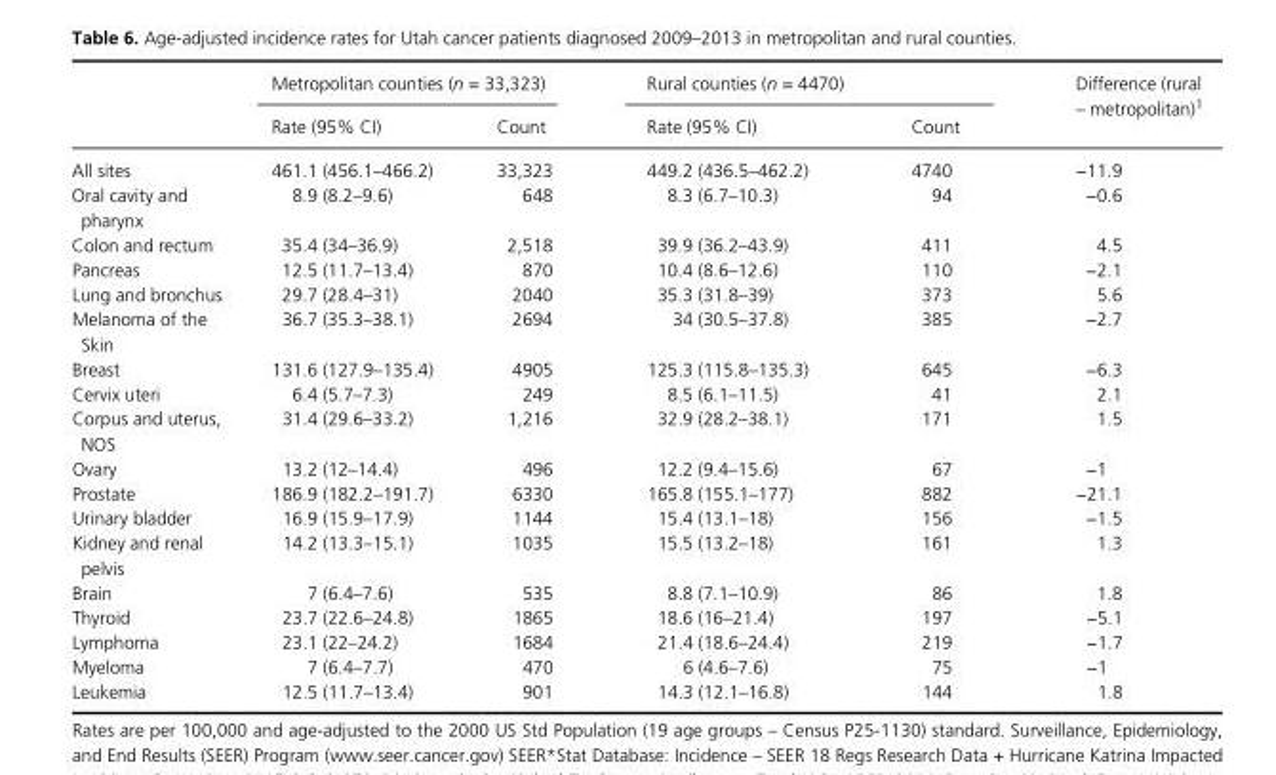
<table><thead><tr><td rowspan="2"></td><td colspan="2">Metropolitan counties (n = 33,323)</td><td colspan="2">Rural counties (n = 4470)</td><td rowspan="2">Difference (rural – metropolitan)1</td></tr><tr><td>Rate (95% CI)</td><td>Count</td><td>Rate (95% CI)</td><td>Count</td></tr></thead><tbody><tr><td>All sites</td><td>461.1 (456.1–466.2)</td><td>33,323</td><td>449.2 (436.5–462.2)</td><td>4740</td><td>−11.9</td></tr><tr><td>Oral cavity and pharynx</td><td>8.9 (8.2–9.6)</td><td>648</td><td>8.3 (6.7–10.3)</td><td>94</td><td>−0.6</td></tr><tr><td>Colon and rectum</td><td>35.4 (34–36.9)</td><td>2,518</td><td>39.9 (36.2–43.9)</td><td>411</td><td>4.5</td></tr><tr><td>Pancreas</td><td>12.5 (11.7–13.4)</td><td>870</td><td>10.4 (8.6–12.6)</td><td>110</td><td>−2.1</td></tr><tr><td>Lung and bronchus</td><td>29.7 (28.4–31)</td><td>2040</td><td>35.3 (31.8–39)</td><td>373</td><td>5.6</td></tr><tr><td>Melanoma of the Skin</td><td>36.7 (35.3–38.1)</td><td>2694</td><td>34 (30.5–37.8)</td><td>385</td><td>−2.7</td></tr><tr><td>Breast</td><td>131.6 (127.9–135.4)</td><td>4905</td><td>125.3 (115.8–135.3)</td><td>645</td><td>−6.3</td></tr><tr><td>Cervix uteri</td><td>6.4 (5.7–7.3)</td><td>249</td><td>8.5 (6.1–11.5)</td><td>41</td><td>2.1</td></tr><tr><td>Corpus and uterus, NOS</td><td>31.4 (29.6–33.2)</td><td>1,216</td><td>32.9 (28.2–38.1)</td><td>171</td><td>1.5</td></tr><tr><td>Ovary</td><td>13.2 (12–14.4)</td><td>496</td><td>12.2 (9.4–15.6)</td><td>67</td><td>−1</td></tr><tr><td>Prostate</td><td>186.9 (182.2–191.7)</td><td>6330</td><td>165.8 (155.1–177)</td><td>882</td><td>−21.1</td></tr><tr><td>Urinary bladder</td><td>16.9 (15.9–17.9)</td><td>1144</td><td>15.4 (13.1–18)</td><td>156</td><td>−1.5</td></tr><tr><td>Kidney and renal pelvis</td><td>14.2 (13.3–15.1)</td><td>1035</td><td>15.5 (13.2–18)</td><td>161</td><td>1.3</td></tr><tr><td>Brain</td><td>7 (6.4–7.6)</td><td>535</td><td>8.8 (7.1–10.9)</td><td>86</td><td>1.8</td></tr><tr><td>Thyroid</td><td>23.7 (22.6–24.8)</td><td>1865</td><td>18.6 (16–21.4)</td><td>197</td><td>−5.1</td></tr><tr><td>Lymphoma</td><td>23.1 (22–24.2)</td><td>1684</td><td>21.4 (18.6–24.4)</td><td>219</td><td>−1.7</td></tr><tr><td>Myeloma</td><td>7 (6.4–7.7)</td><td>470</td><td>6 (4.6–7.6)</td><td>75</td><td>−1</td></tr><tr><td>Leukemia</td><td>12.5 (11.7–13.4)</td><td>901</td><td>14.3 (12.1–16.8)</td><td>144</td><td>1.8</td></tr></tbody></table>